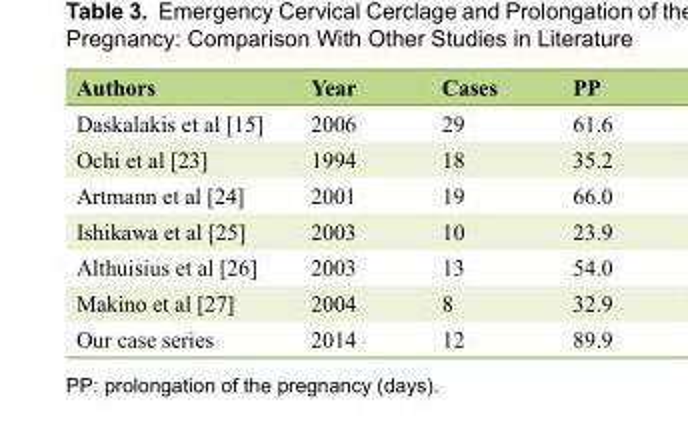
<table><thead><tr><td>Authors</td><td>Year</td><td>Cases</td><td>PP</td></tr></thead><tbody><tr><td>Daskalakis et al [15]</td><td>2006</td><td>29</td><td>61.6</td></tr><tr><td>Ochi et al [23]</td><td>1994</td><td>18</td><td>35.2</td></tr><tr><td>Artmann et al [24]</td><td>2001</td><td>19</td><td>66.0</td></tr><tr><td>Ishikawa et al [25]</td><td>2003</td><td>10</td><td>23.9</td></tr><tr><td>Althuisius et al [26]</td><td>2003</td><td>13</td><td>54.0</td></tr><tr><td>Makino et al [27]</td><td>2004</td><td>8</td><td>32.9</td></tr><tr><td>Our case series</td><td>2014</td><td>12</td><td>89.9</td></tr></tbody></table>